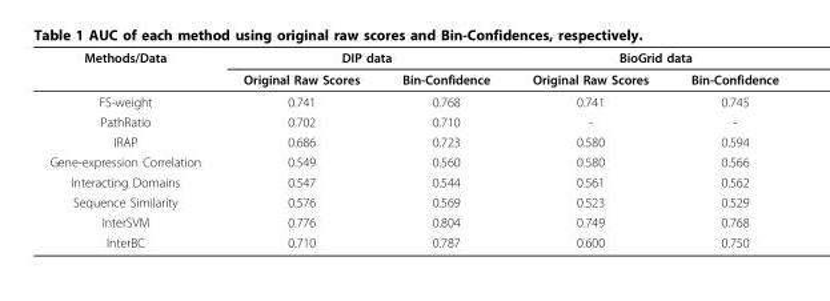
<table><thead><tr><td rowspan="2">Methods/Data</td><td colspan="2">DIP data</td><td colspan="2">BioGrid data</td></tr><tr><td>Original Raw Scores</td><td>Bin-Confidence</td><td>Original Raw Scores</td><td>Bin-Confidence</td></tr></thead><tbody><tr><td>FS-weight</td><td>0.741</td><td>0.768</td><td>0.741</td><td>0.745</td></tr><tr><td>PathRatio</td><td>0.702</td><td>0.710</td><td>-</td><td>-</td></tr><tr><td>IRAP</td><td>0.686</td><td>0.723</td><td>0.580</td><td>0.594</td></tr><tr><td>Gene-expression Correlation</td><td>0.549</td><td>0.560</td><td>0.580</td><td>0.566</td></tr><tr><td>Interacting Domains</td><td>0.547</td><td>0.544</td><td>0.561</td><td>0.562</td></tr><tr><td>Sequence Similarity</td><td>0.576</td><td>0.569</td><td>0.523</td><td>0.529</td></tr><tr><td>InterSVM</td><td>0.776</td><td>0.804</td><td>0.749</td><td>0.768</td></tr><tr><td>InterBC</td><td>0.710</td><td>0.787</td><td>0.600</td><td>0.750</td></tr></tbody></table>